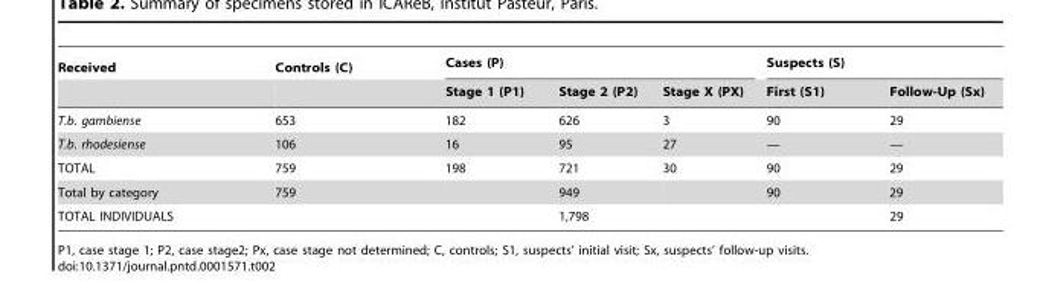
<table><thead><tr><td rowspan="2">Received</td><td rowspan="2">Controls (C)</td><td colspan="3">Cases (P)</td><td colspan="2">Suspects (S)</td></tr><tr><td>Stage 1 (P1)</td><td>Stage 2 (P2)</td><td>Stage X (PX)</td><td>First (S1)</td><td>Follow-Up (Sx)</td></tr></thead><tbody><tr><td>T.b. gambiense</td><td>653</td><td>182</td><td>626</td><td>3</td><td>90</td><td>29</td></tr><tr><td>T.b. rhodesiense</td><td>106</td><td>16</td><td>95</td><td>27</td><td>—</td><td>—</td></tr><tr><td>TOTAL</td><td>759</td><td>198</td><td>721</td><td>30</td><td>90</td><td>29</td></tr><tr><td>Total by category</td><td>759</td><td></td><td>949</td><td></td><td>90</td><td>29</td></tr><tr><td>TOTAL INDIVIDUALS</td><td></td><td></td><td>1,798</td><td></td><td></td><td>29</td></tr></tbody></table>